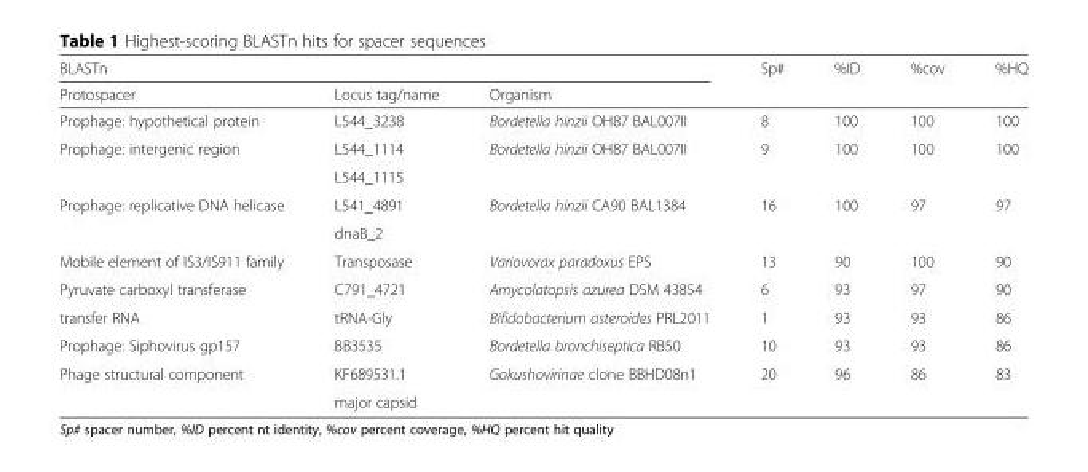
<table><thead><tr><td colspan="3">BLASTn</td><td rowspan="2">Sp#</td><td rowspan="2">%ID</td><td rowspan="2">%cov</td><td rowspan="2">%HQ</td></tr><tr><td>Protospacer</td><td>Locus tag/name</td><td>Organism</td></tr></thead><tbody><tr><td>Prophage: hypothetical protein</td><td>L544_3238</td><td>Bordetella hinzii OH87 BAL007II</td><td>8</td><td>100</td><td>100</td><td>100</td></tr><tr><td rowspan="2">Prophage: intergenic region</td><td>L544_1114</td><td rowspan="2">Bordetella hinzii OH87 BAL007II</td><td rowspan="2">9</td><td rowspan="2">100</td><td rowspan="2">100</td><td rowspan="2">100</td></tr><tr><td>L544_1115</td></tr><tr><td rowspan="2">Prophage: replicative DNA helicase</td><td>L541_4891</td><td rowspan="2">Bordetella hinzii CA90 BAL1384</td><td rowspan="2">16</td><td rowspan="2">100</td><td rowspan="2">97</td><td rowspan="2">97</td></tr><tr><td>dnaB_2</td></tr><tr><td>Mobile element of IS3/IS911 family</td><td>Transposase</td><td>Variovorax paradoxus EPS</td><td>13</td><td>90</td><td>100</td><td>90</td></tr><tr><td>Pyruvate carboxyl transferase</td><td>C791_4721</td><td>Amycolatopsis azurea DSM 43854</td><td>6</td><td>93</td><td>97</td><td>90</td></tr><tr><td>transfer RNA</td><td>tRNA-Gly</td><td>Bifidobacterium asteroides PRL2011</td><td>1</td><td>93</td><td>93</td><td>86</td></tr><tr><td>Prophage: Siphovirus gp157</td><td>BB3535</td><td>Bordetella bronchiseptica RB50</td><td>10</td><td>93</td><td>93</td><td>86</td></tr><tr><td rowspan="2">Phage structural component</td><td>KF689531.1</td><td rowspan="2">Gokushovirinae clone BBHD08n1</td><td rowspan="2">20</td><td rowspan="2">96</td><td rowspan="2">86</td><td rowspan="2">83</td></tr><tr><td>major capsid</td></tr></tbody></table>